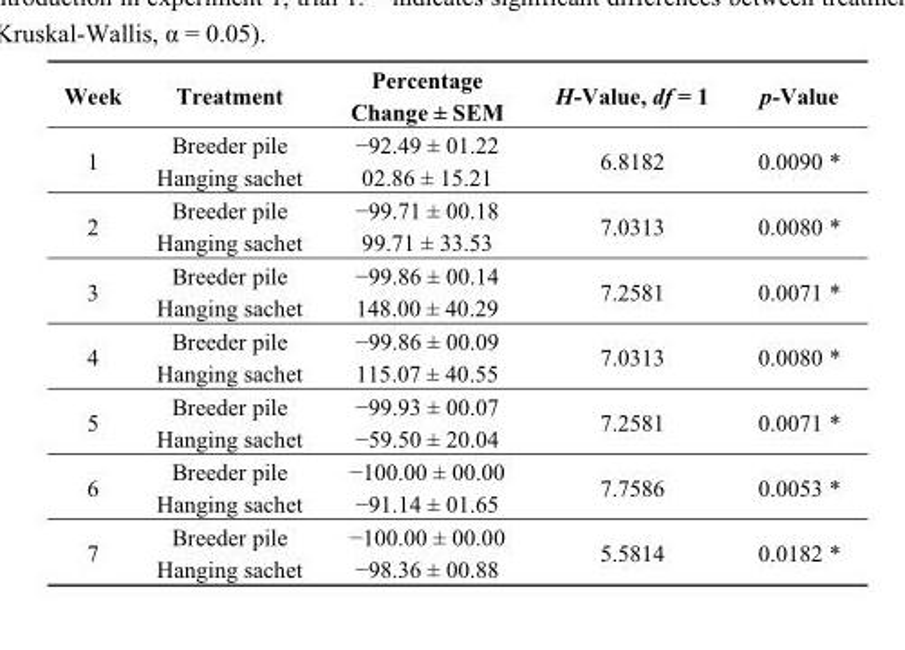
<table><thead><tr><td>Week</td><td>Treatment</td><td>Percentage Change ± SEM</td><td>H-Value, df = 1</td><td>p-Value</td></tr></thead><tbody><tr><td rowspan="2">1</td><td>Breeder pile</td><td>−92.49 ± 01.22</td><td rowspan="2">6.8182</td><td rowspan="2">0.0090 *</td></tr><tr><td>Hanging sachet</td><td>02.86 ± 15.21</td></tr><tr><td rowspan="2">2</td><td>Breeder pile</td><td>−99.71 ± 00.18</td><td rowspan="2">7.0313</td><td rowspan="2">0.0080 *</td></tr><tr><td>Hanging sachet</td><td>99.71 ± 33.53</td></tr><tr><td rowspan="2">3</td><td>Breeder pile</td><td>−99.86 ± 00.14</td><td rowspan="2">7.2581</td><td rowspan="2">0.0071 *</td></tr><tr><td>Hanging sachet</td><td>148.00 ± 40.29</td></tr><tr><td rowspan="2">4</td><td>Breeder pile</td><td>−99.86 ± 00.09</td><td rowspan="2">7.0313</td><td rowspan="2">0.0080 *</td></tr><tr><td>Hanging sachet</td><td>115.07 ± 40.55</td></tr><tr><td rowspan="2">5</td><td>Breeder pile</td><td>−99.93 ± 00.07</td><td rowspan="2">7.2581</td><td rowspan="2">0.0071 *</td></tr><tr><td>Hanging sachet</td><td>−59.50 ± 20.04</td></tr><tr><td rowspan="2">6</td><td>Breeder pile</td><td>−100.00 ± 00.00</td><td rowspan="2">7.7586</td><td rowspan="2">0.0053 *</td></tr><tr><td>Hanging sachet</td><td>−91.14 ± 01.65</td></tr><tr><td rowspan="2">7</td><td>Breeder pile</td><td>−100.00 ± 00.00</td><td rowspan="2">5.5814</td><td rowspan="2">0.0182 *</td></tr><tr><td>Hanging sachet</td><td>−98.36 ± 00.88</td></tr></tbody></table>